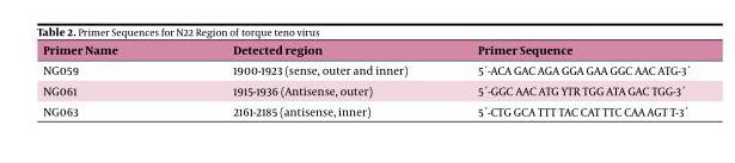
<table><thead><tr><td>Primer Name</td><td>Detected region</td><td>Primer Sequence</td></tr></thead><tbody><tr><td>NG059</td><td>1900-1923 (sense, outer and inner)</td><td>5΄-ACA GAC AGA GGA GAA GGC AAC ATG-3΄</td></tr><tr><td>NG061</td><td>1915-1936 (Antisense, outer)</td><td>5΄-GGC AAC ATG YTR TGG ATA GAC TGG-3΄</td></tr><tr><td>NG063</td><td>2161-2185 (antisense, inner)</td><td>5΄-CTG GCA TTT TAC CAT TTC CAA AGT T-3΄</td></tr></tbody></table>